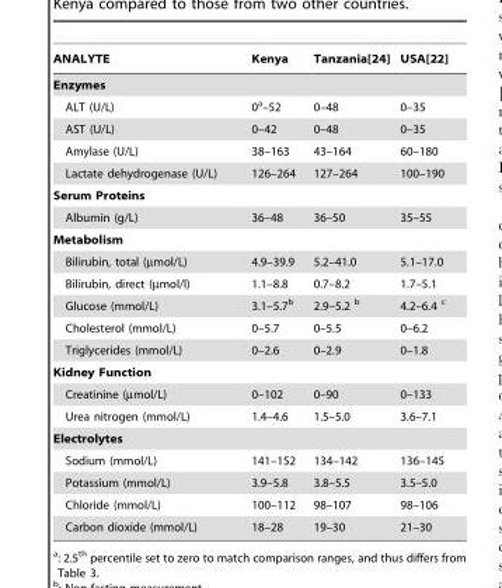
<table><thead><tr><td>ANALYTE</td><td>Kenya</td><td>Tanzania[24]</td><td>USA[22]</td></tr></thead><tbody><tr><td colspan="4">Enzymes</td></tr><tr><td>ALT (U/L)</td><td>0<sup>a</sup>–52</td><td>0–48</td><td>0–35</td></tr><tr><td>AST (U/L)</td><td>0–42</td><td>0–48</td><td>0–35</td></tr><tr><td>Amylase (U/L)</td><td>38–163</td><td>43–164</td><td>60–180</td></tr><tr><td>Lactate dehydrogenase (U/L)</td><td>126–264</td><td>127–264</td><td>100–190</td></tr><tr><td colspan="4">Serum Proteins</td></tr><tr><td>Albumin (g/L)</td><td>36–48</td><td>36–50</td><td>35–55</td></tr><tr><td colspan="4">Metabolism</td></tr><tr><td>Bilirubin, total (µmol/L)</td><td>4.9–39.9</td><td>5.2–41.0</td><td>5.1–17.0</td></tr><tr><td>Bilirubin, direct (µmol/l)</td><td>1.1–8.8</td><td>0.7–8.2</td><td>1.7–5.1</td></tr><tr><td>Glucose (mmol/L)</td><td>3.1–5.7<sup>b</sup></td><td>2.9–5.2 b</td><td>4.2–6.4 c</td></tr><tr><td>Cholesterol (mmol/L)</td><td>0–5.7</td><td>0–5.5</td><td>0–6.2</td></tr><tr><td>Triglycerides (mmol/L)</td><td>0–2.6</td><td>0–2.9</td><td>0–1.8</td></tr><tr><td colspan="4">Kidney Function</td></tr><tr><td>Creatinine (µmol/L)</td><td>0–102</td><td>0–90</td><td>0–133</td></tr><tr><td>Urea nitrogen (mmol/L)</td><td>1.4–4.6</td><td>1.5–5.0</td><td>3.6–7.1</td></tr><tr><td colspan="4">Electrolytes</td></tr><tr><td>Sodium (mmol/L)</td><td>141–152</td><td>134–142</td><td>136–145</td></tr><tr><td>Potassium (mmol/L)</td><td>3.9–5.8</td><td>3.8–5.5</td><td>3.5–5.0</td></tr><tr><td>Chloride (mmol/L)</td><td>100–112</td><td>98–107</td><td>98–106</td></tr><tr><td>Carbon dioxide (mmol/L)</td><td>18–28</td><td>19–30</td><td>21–30</td></tr></tbody></table>